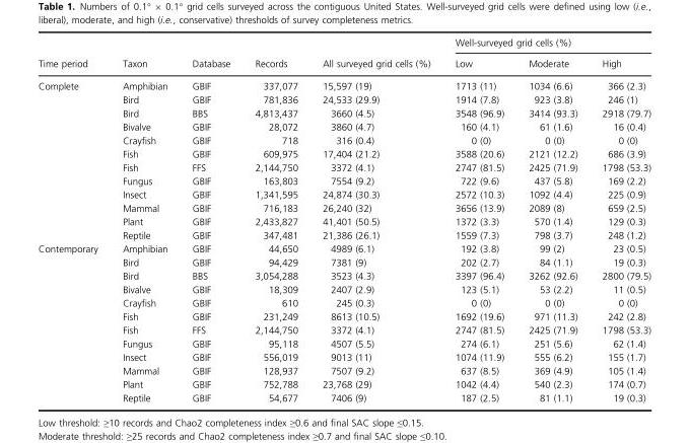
<table><thead><tr><td rowspan="2">Time period</td><td rowspan="2">Taxon</td><td rowspan="2">Database</td><td rowspan="2">Records</td><td rowspan="2">All surveyed grid cells (%)</td><td colspan="3">Well-surveyed grid cells (%)</td></tr><tr><td>Low</td><td>Moderate</td><td>High</td></tr></thead><tbody><tr><td rowspan="12">Complete</td><td>Amphibian</td><td>GBIF</td><td>337,077</td><td>15,597 (19)</td><td>1713 (11)</td><td>1034 (6.6)</td><td>366 (2.3)</td></tr><tr><td>Bird</td><td>GBIF</td><td>781,836</td><td>24,533 (29.9)</td><td>1914 (7.8)</td><td>923 (3.8)</td><td>246 (1)</td></tr><tr><td>Bird</td><td>BBS</td><td>4,813,437</td><td>3660 (4.5)</td><td>3548 (96.9)</td><td>3414 (93.3)</td><td>2918 (79.7)</td></tr><tr><td>Bivalve</td><td>GBIF</td><td>28,072</td><td>3860 (4.7)</td><td>160 (4.1)</td><td>61 (1.6)</td><td>16 (0.4)</td></tr><tr><td>Crayfish</td><td>GBIF</td><td>718</td><td>316 (0.4)</td><td>0 (0)</td><td>0 (0)</td><td>0 (0)</td></tr><tr><td>Fish</td><td>GBIF</td><td>609,975</td><td>17,404 (21.2)</td><td>3588 (20.6)</td><td>2121 (12.2)</td><td>686 (3.9)</td></tr><tr><td>Fish</td><td>FFS</td><td>2,144,750</td><td>3372 (4.1)</td><td>2747 (81.5)</td><td>2425 (71.9)</td><td>1798 (53.3)</td></tr><tr><td>Fungus</td><td>GBIF</td><td>163,803</td><td>7554 (9.2)</td><td>722 (9.6)</td><td>437 (5.8)</td><td>169 (2.2)</td></tr><tr><td>Insect</td><td>GBIF</td><td>1,341,595</td><td>24,874 (30.3)</td><td>2572 (10.3)</td><td>1092 (4.4)</td><td>225 (0.9)</td></tr><tr><td>Mammal</td><td>GBIF</td><td>716,183</td><td>26,240 (32)</td><td>3656 (13.9)</td><td>2089 (8)</td><td>659 (2.5)</td></tr><tr><td>Plant</td><td>GBIF</td><td>2,433,827</td><td>41,401 (50.5)</td><td>1372 (3.3)</td><td>570 (1.4)</td><td>129 (0.3)</td></tr><tr><td>Reptile</td><td>GBIF</td><td>347,481</td><td>21,386 (26.1)</td><td>1559 (7.3)</td><td>798 (3.7)</td><td>248 (1.2)</td></tr><tr><td rowspan="12">Contemporary</td><td>Amphibian</td><td>GBIF</td><td>44,650</td><td>4989 (6.1)</td><td>192 (3.8)</td><td>99 (2)</td><td>23 (0.5)</td></tr><tr><td>Bird</td><td>GBIF</td><td>94,429</td><td>7381 (9)</td><td>202 (2.7)</td><td>84 (1.1)</td><td>19 (0.3)</td></tr><tr><td>Bird</td><td>BBS</td><td>3,054,288</td><td>3523 (4.3)</td><td>3397 (96.4)</td><td>3262 (92.6)</td><td>2800 (79.5)</td></tr><tr><td>Bivalve</td><td>GBIF</td><td>18,309</td><td>2407 (2.9)</td><td>123 (5.1)</td><td>53 (2.2)</td><td>11 (0.5)</td></tr><tr><td>Crayfish</td><td>GBIF</td><td>610</td><td>245 (0.3)</td><td>0 (0)</td><td>0 (0)</td><td>0 (0)</td></tr><tr><td>Fish</td><td>GBIF</td><td>231,249</td><td>8613 (10.5)</td><td>1692 (19.6)</td><td>971 (11.3)</td><td>242 (2.8)</td></tr><tr><td>Fish</td><td>FFS</td><td>2,144,750</td><td>3372 (4.1)</td><td>2747 (81.5)</td><td>2425 (71.9)</td><td>1798 (53.3)</td></tr><tr><td>Fungus</td><td>GBIF</td><td>95,118</td><td>4507 (5.5)</td><td>274 (6.1)</td><td>251 (5.6)</td><td>62 (1.4)</td></tr><tr><td>Insect</td><td>GBIF</td><td>556,019</td><td>9013 (11)</td><td>1074 (11.9)</td><td>555 (6.2)</td><td>155 (1.7)</td></tr><tr><td>Mammal</td><td>GBIF</td><td>128,937</td><td>7507 (9.2)</td><td>637 (8.5)</td><td>369 (4.9)</td><td>105 (1.4)</td></tr><tr><td>Plant</td><td>GBIF</td><td>752,788</td><td>23,768 (29)</td><td>1042 (4.4)</td><td>540 (2.3)</td><td>174 (0.7)</td></tr><tr><td>Reptile</td><td>GBIF</td><td>54,677</td><td>7406 (9)</td><td>187 (2.5)</td><td>81 (1.1)</td><td>19 (0.3)</td></tr></tbody></table>